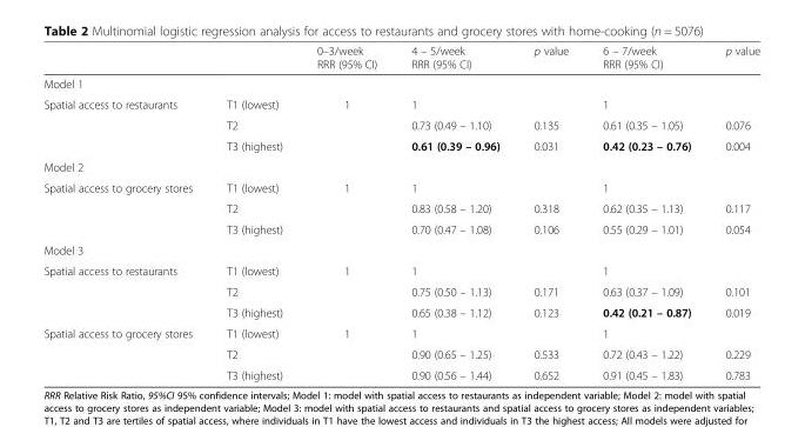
<table><thead><tr><td></td><td></td><td>0–3/week RRR (95% CI)</td><td>4 – 5/week RRR (95% CI)</td><td>p value</td><td>6 – 7/week RRR (95% CI)</td><td>p value</td></tr></thead><tbody><tr><td colspan="7">Model 1</td></tr><tr><td rowspan="3">Spatial access to restaurants</td><td>T1 (lowest)</td><td rowspan="3">1</td><td>1</td><td></td><td>1</td><td></td></tr><tr><td>T2</td><td>0.73 (0.49 – 1.10)</td><td>0.135</td><td>0.61 (0.35 – 1.05)</td><td>0.076</td></tr><tr><td>T3 (highest)</td><td>0.61 (0.39 – 0.96)</td><td>0.031</td><td>0.42 (0.23 – 0.76)</td><td>0.004</td></tr><tr><td colspan="7">Model 2</td></tr><tr><td rowspan="3">Spatial access to grocery stores</td><td>T1 (lowest)</td><td rowspan="3">1</td><td>1</td><td></td><td>1</td><td></td></tr><tr><td>T2</td><td>0.83 (0.58 – 1.20)</td><td>0.318</td><td>0.62 (0.35 – 1.13)</td><td>0.117</td></tr><tr><td>T3 (highest)</td><td>0.70 (0.47 – 1.08)</td><td>0.106</td><td>0.55 (0.29 – 1.01)</td><td>0.054</td></tr><tr><td colspan="7">Model 3</td></tr><tr><td rowspan="3">Spatial access to restaurants</td><td>T1 (lowest)</td><td rowspan="3">1</td><td>1</td><td></td><td>1</td><td></td></tr><tr><td>T2</td><td>0.75 (0.50 – 1.13)</td><td>0.171</td><td>0.63 (0.37 – 1.09)</td><td>0.101</td></tr><tr><td>T3 (highest)</td><td>0.65 (0.38 – 1.12)</td><td>0.123</td><td>0.42 (0.21 – 0.87)</td><td>0.019</td></tr><tr><td rowspan="3">Spatial access to grocery stores</td><td>T1 (lowest)</td><td rowspan="3">1</td><td>1</td><td></td><td>1</td><td></td></tr><tr><td>T2</td><td>0.90 (0.65 – 1.25)</td><td>0.533</td><td>0.72 (0.43 – 1.22)</td><td>0.229</td></tr><tr><td>T3 (highest)</td><td>0.90 (0.56 – 1.44)</td><td>0.652</td><td>0.91 (0.45 – 1.83)</td><td>0.783</td></tr></tbody></table>